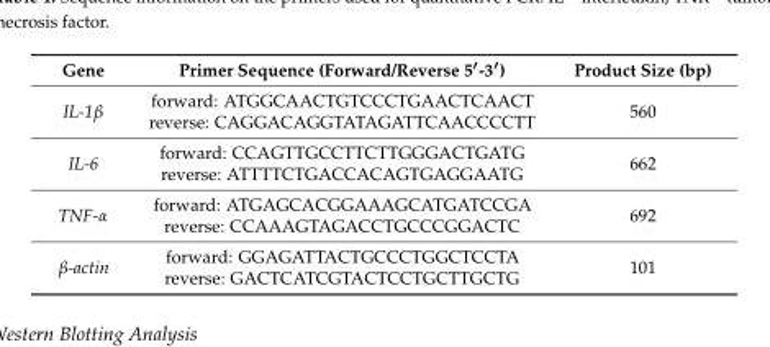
<table><thead><tr><td>Gene</td><td>Primer Sequence (Forward/Reverse 5′-3′)</td><td>Product Size (bp)</td></tr></thead><tbody><tr><td>IL-1β</td><td>forward: ATGGCAACTGTCCCTGAACTCAACT reverse: CAGGACAGGTATAGATTCAACCCCTT</td><td>560</td></tr><tr><td>IL-6</td><td>forward: CCAGTTGCCTTCTTGGGACTGATG reverse: ATTTTCTGACCACAGTGAGGAATG</td><td>662</td></tr><tr><td>TNF-α</td><td>forward: ATGAGCACGGAAAGCATGATCCGA reverse: CCAAAGTAGACCTGCCCGGACTC</td><td>692</td></tr><tr><td>β-actin</td><td>forward: GGAGATTACTGCCCTGGCTCCTA reverse: GACTCATCGTACTCCTGCTTGCTG</td><td>101</td></tr></tbody></table>